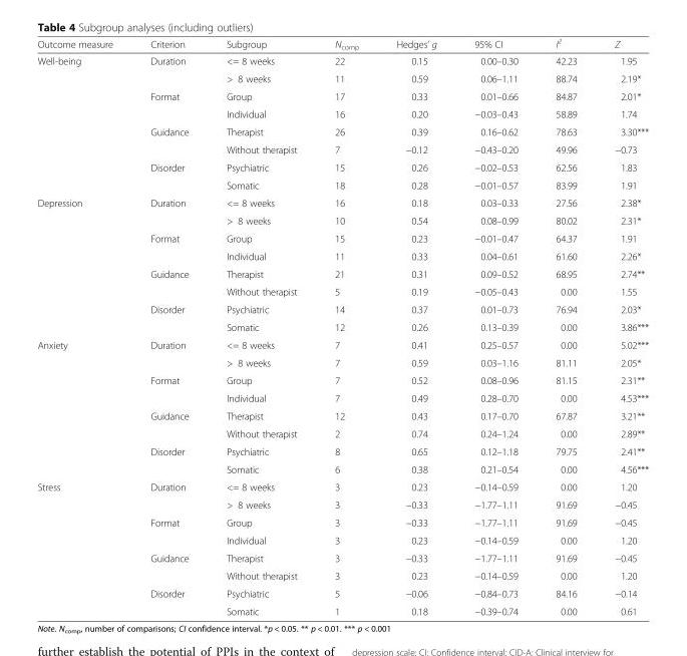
<table><thead><tr><td>Outcome measure</td><td>Criterion</td><td>Subgroup</td><td>N<sub>comp</sub></td><td>Hedges’ g</td><td>95% CI</td><td>I<sup>2</sup></td><td>Z</td></tr></thead><tbody><tr><td rowspan="8">Well-being</td><td rowspan="2">Duration</td><td>&lt;= 8 weeks</td><td>22</td><td>0.15</td><td>0.00–0.30</td><td>42.23</td><td>1.95</td></tr><tr><td>&gt; 8 weeks</td><td>11</td><td>0.59</td><td>0.06–1.11</td><td>88.74</td><td>2.19*</td></tr><tr><td rowspan="2">Format</td><td>Group</td><td>17</td><td>0.33</td><td>0.01–0.66</td><td>84.87</td><td>2.01*</td></tr><tr><td>Individual</td><td>16</td><td>0.20</td><td>−0.03–0.43</td><td>58.89</td><td>1.74</td></tr><tr><td rowspan="2">Guidance</td><td>Therapist</td><td>26</td><td>0.39</td><td>0.16–0.62</td><td>78.63</td><td>3.30***</td></tr><tr><td>Without therapist</td><td>7</td><td>−0.12</td><td>−0.43–0.20</td><td>49.96</td><td>−0.73</td></tr><tr><td rowspan="2">Disorder</td><td>Psychiatric</td><td>15</td><td>0.26</td><td>−0.02–0.53</td><td>62.56</td><td>1.83</td></tr><tr><td>Somatic</td><td>18</td><td>0.28</td><td>−0.01–0.57</td><td>83.99</td><td>1.91</td></tr><tr><td rowspan="8">Depression</td><td rowspan="2">Duration</td><td>&lt;= 8 weeks</td><td>16</td><td>0.18</td><td>0.03–0.33</td><td>27.56</td><td>2.38*</td></tr><tr><td>&gt; 8 weeks</td><td>10</td><td>0.54</td><td>0.08–0.99</td><td>80.02</td><td>2.31*</td></tr><tr><td rowspan="2">Format</td><td>Group</td><td>15</td><td>0.23</td><td>−0.01–0.47</td><td>64.37</td><td>1.91</td></tr><tr><td>Individual</td><td>11</td><td>0.33</td><td>0.04–0.61</td><td>61.60</td><td>2.26*</td></tr><tr><td rowspan="2">Guidance</td><td>Therapist</td><td>21</td><td>0.31</td><td>0.09–0.52</td><td>68.95</td><td>2.74**</td></tr><tr><td>Without therapist</td><td>5</td><td>0.19</td><td>−0.05–0.43</td><td>0.00</td><td>1.55</td></tr><tr><td rowspan="2">Disorder</td><td>Psychiatric</td><td>14</td><td>0.37</td><td>0.01–0.73</td><td>76.94</td><td>2.03*</td></tr><tr><td>Somatic</td><td>12</td><td>0.26</td><td>0.13–0.39</td><td>0.00</td><td>3.86***</td></tr><tr><td rowspan="8">Anxiety</td><td rowspan="2">Duration</td><td>&lt;= 8 weeks</td><td>7</td><td>0.41</td><td>0.25–0.57</td><td>0.00</td><td>5.02***</td></tr><tr><td>&gt; 8 weeks</td><td>7</td><td>0.59</td><td>0.03–1.16</td><td>81.11</td><td>2.05*</td></tr><tr><td rowspan="2">Format</td><td>Group</td><td>7</td><td>0.52</td><td>0.08–0.96</td><td>81.15</td><td>2.31**</td></tr><tr><td>Individual</td><td>7</td><td>0.49</td><td>0.28–0.70</td><td>0.00</td><td>4.53***</td></tr><tr><td rowspan="2">Guidance</td><td>Therapist</td><td>12</td><td>0.43</td><td>0.17–0.70</td><td>67.87</td><td>3.21**</td></tr><tr><td>Without therapist</td><td>2</td><td>0.74</td><td>0.24–1.24</td><td>0.00</td><td>2.89**</td></tr><tr><td rowspan="2">Disorder</td><td>Psychiatric</td><td>8</td><td>0.65</td><td>0.12–1.18</td><td>79.75</td><td>2.41**</td></tr><tr><td>Somatic</td><td>6</td><td>0.38</td><td>0.21–0.54</td><td>0.00</td><td>4.56***</td></tr><tr><td rowspan="8">Stress</td><td rowspan="2">Duration</td><td>&lt;= 8 weeks</td><td>3</td><td>0.23</td><td>−0.14–0.59</td><td>0.00</td><td>1.20</td></tr><tr><td>&gt; 8 weeks</td><td>3</td><td>−0.33</td><td>−1.77–1.11</td><td>91.69</td><td>−0.45</td></tr><tr><td rowspan="2">Format</td><td>Group</td><td>3</td><td>−0.33</td><td>−1.77–1.11</td><td>91.69</td><td>−0.45</td></tr><tr><td>Individual</td><td>3</td><td>0.23</td><td>−0.14–0.59</td><td>0.00</td><td>1.20</td></tr><tr><td rowspan="2">Guidance</td><td>Therapist</td><td>3</td><td>−0.33</td><td>−1.77–1.11</td><td>91.69</td><td>−0.45</td></tr><tr><td>Without therapist</td><td>3</td><td>0.23</td><td>−0.14–0.59</td><td>0.00</td><td>1.20</td></tr><tr><td rowspan="2">Disorder</td><td>Psychiatric</td><td>5</td><td>−0.06</td><td>−0.84–0.73</td><td>84.16</td><td>−0.14</td></tr><tr><td>Somatic</td><td>1</td><td>0.18</td><td>−0.39–0.74</td><td>0.00</td><td>0.61</td></tr></tbody></table>